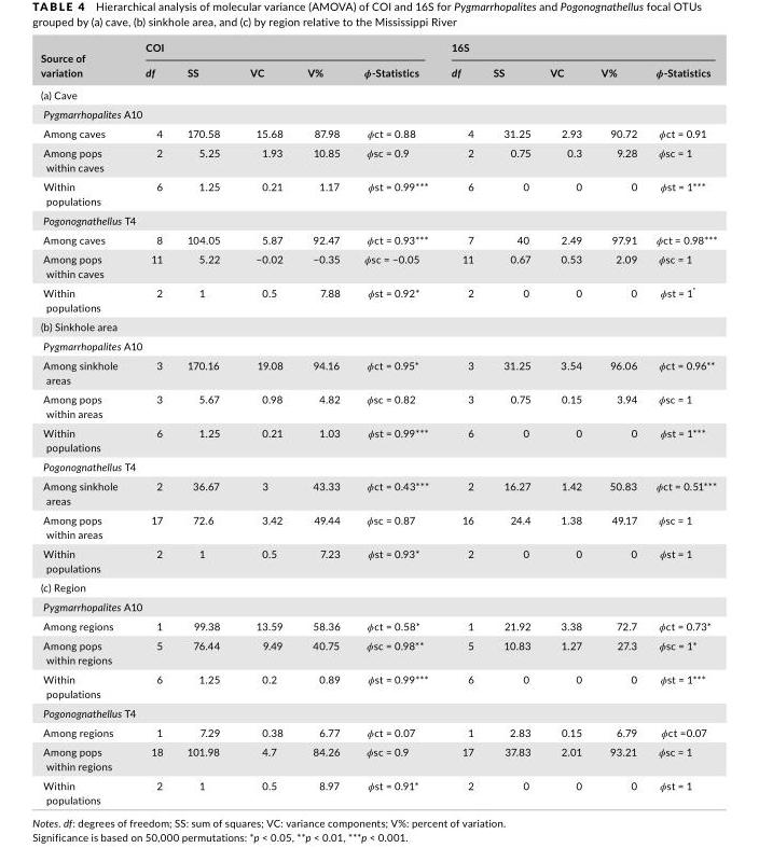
<table><thead><tr><td rowspan="2">Source of variation</td><td colspan="5">COI</td><td colspan="5">16S</td></tr><tr><td>df</td><td>SS</td><td>VC</td><td>V%</td><td>ϕ- Statistics</td><td>df</td><td>SS</td><td>VC</td><td>V%</td><td>ϕ- Statistics</td></tr></thead><tbody><tr><td colspan="11">(a) Cave</td></tr><tr><td colspan="11">Pygmarrhopalites A10</td></tr><tr><td>Among caves</td><td>4</td><td>170.58</td><td>15.68</td><td>87.98</td><td>ϕct = 0.88</td><td>4</td><td>31.25</td><td>2.93</td><td>90.72</td><td>ϕct = 0.91</td></tr><tr><td>Among pops within caves</td><td>2</td><td>5.25</td><td>1.93</td><td>10.85</td><td>ϕsc = 0.9</td><td>2</td><td>0.75</td><td>0.3</td><td>9.28</td><td>ϕsc = 1</td></tr><tr><td>Within populations</td><td>6</td><td>1.25</td><td>0.21</td><td>1.17</td><td>ϕst = 0.99***</td><td>6</td><td>0</td><td>0</td><td>0</td><td>ϕst = 1***</td></tr><tr><td colspan="11">Pogonognathellus T4</td></tr><tr><td>Among caves</td><td>8</td><td>104.05</td><td>5.87</td><td>92.47</td><td>ϕct = 0.93***</td><td>7</td><td>40</td><td>2.49</td><td>97.91</td><td>ϕct = 0.98***</td></tr><tr><td>Among pops within caves</td><td>11</td><td>5.22</td><td>−0.02</td><td>−0.35</td><td>ϕsc = −0.05</td><td>11</td><td>0.67</td><td>0.53</td><td>2.09</td><td>ϕsc = 1</td></tr><tr><td>Within populations</td><td>2</td><td>1</td><td>0.5</td><td>7.88</td><td>ϕst = 0.92*</td><td>2</td><td>0</td><td>0</td><td>0</td><td>ϕst = 1*</td></tr><tr><td colspan="11">(b) Sinkhole area</td></tr><tr><td colspan="11">Pygmarrhopalites A10</td></tr><tr><td>Among sinkhole areas</td><td>3</td><td>170.16</td><td>19.08</td><td>94.16</td><td>ϕct = 0.95*</td><td>3</td><td>31.25</td><td>3.54</td><td>96.06</td><td>ϕct = 0.96**</td></tr><tr><td>Among pops within areas</td><td>3</td><td>5.67</td><td>0.98</td><td>4.82</td><td>ϕsc = 0.82</td><td>3</td><td>0.75</td><td>0.15</td><td>3.94</td><td>ϕsc = 1</td></tr><tr><td>Within populations</td><td>6</td><td>1.25</td><td>0.21</td><td>1.03</td><td>ϕst = 0.99***</td><td>6</td><td>0</td><td>0</td><td>0</td><td>ϕst = 1***</td></tr><tr><td colspan="11">Pogonognathellus T4</td></tr><tr><td>Among sinkhole areas</td><td>2</td><td>36.67</td><td>3</td><td>43.33</td><td>ϕct = 0.43***</td><td>2</td><td>16.27</td><td>1.42</td><td>50.83</td><td>ϕct = 0.51***</td></tr><tr><td>Among pops within areas</td><td>17</td><td>72.6</td><td>3.42</td><td>49.44</td><td>ϕsc = 0.87</td><td>16</td><td>24.4</td><td>1.38</td><td>49.17</td><td>ϕsc = 1</td></tr><tr><td>Within populations</td><td>2</td><td>1</td><td>0.5</td><td>7.23</td><td>ϕst = 0.93*</td><td>2</td><td>0</td><td>0</td><td>0</td><td>ϕst = 1</td></tr><tr><td colspan="11">(c) Region</td></tr><tr><td colspan="11">Pygmarrhopalites A10</td></tr><tr><td>Among regions</td><td>1</td><td>99.38</td><td>13.59</td><td>58.36</td><td>ϕct = 0.58*</td><td>1</td><td>21.92</td><td>3.38</td><td>72.7</td><td>ϕct = 0.73*</td></tr><tr><td>Among pops within regions</td><td>5</td><td>76.44</td><td>9.49</td><td>40.75</td><td>ϕsc = 0.98**</td><td>5</td><td>10.83</td><td>1.27</td><td>27.3</td><td>ϕsc = 1*</td></tr><tr><td>Within populations</td><td>6</td><td>1.25</td><td>0.2</td><td>0.89</td><td>ϕst = 0.99***</td><td>6</td><td>0</td><td>0</td><td>0</td><td>ϕst = 1***</td></tr><tr><td colspan="11">Pogonognathellus T4</td></tr><tr><td>Among regions</td><td>1</td><td>7.29</td><td>0.38</td><td>6.77</td><td>ϕct = 0.07</td><td>1</td><td>2.83</td><td>0.15</td><td>6.79</td><td>ϕct =0.07</td></tr><tr><td>Among pops within regions</td><td>18</td><td>101.98</td><td>4.7</td><td>84.26</td><td>ϕsc = 0.9</td><td>17</td><td>37.83</td><td>2.01</td><td>93.21</td><td>ϕsc = 1</td></tr><tr><td>Within populations</td><td>2</td><td>1</td><td>0.5</td><td>8.97</td><td>ϕst = 0.91*</td><td>2</td><td>0</td><td>0</td><td>0</td><td>ϕst = 1</td></tr></tbody></table>